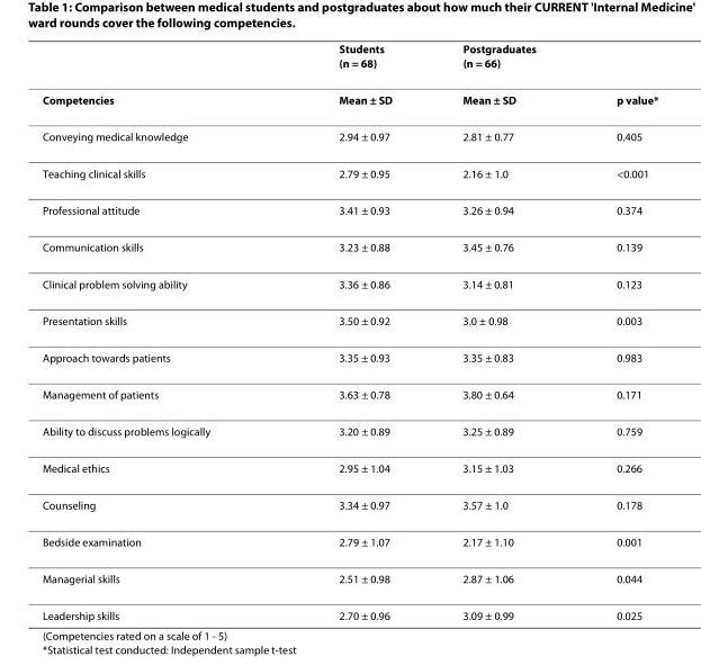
<table><thead><tr><td></td><td>Students (n = 68)</td><td>Postgraduates (n = 66)</td><td></td></tr></thead><tbody><tr><td>Competencies</td><td>Mean ± SD</td><td>Mean ± SD</td><td>p value*</td></tr><tr><td>Conveying medical knowledge</td><td>2.94 ± 0.97</td><td>2.81 ± 0.77</td><td>0.405</td></tr><tr><td>Teaching clinical skills</td><td>2.79 ± 0.95</td><td>2.16 ± 1.0</td><td>&lt;0.001</td></tr><tr><td>Professional attitude</td><td>3.41 ± 0.93</td><td>3.26 ± 0.94</td><td>0.374</td></tr><tr><td>Communication skills</td><td>3.23 ± 0.88</td><td>3.45 ± 0.76</td><td>0.139</td></tr><tr><td>Clinical problem solving ability</td><td>3.36 ± 0.86</td><td>3.14 ± 0.81</td><td>0.123</td></tr><tr><td>Presentation skills</td><td>3.50 ± 0.92</td><td>3.0 ± 0.98</td><td>0.003</td></tr><tr><td>Approach towards patients</td><td>3.35 ± 0.93</td><td>3.35 ± 0.83</td><td>0.983</td></tr><tr><td>Management of patients</td><td>3.63 ± 0.78</td><td>3.80 ± 0.64</td><td>0.171</td></tr><tr><td>Ability to discuss problems logically</td><td>3.20 ± 0.89</td><td>3.25 ± 0.89</td><td>0.759</td></tr><tr><td>Medical ethics</td><td>2.95 ± 1.04</td><td>3.15 ± 1.03</td><td>0.266</td></tr><tr><td>Counseling</td><td>3.34 ± 0.97</td><td>3.57 ± 1.0</td><td>0.178</td></tr><tr><td>Bedside examination</td><td>2.79 ± 1.07</td><td>2.17 ± 1.10</td><td>0.001</td></tr><tr><td>Managerial skills</td><td>2.51 ± 0.98</td><td>2.87 ± 1.06</td><td>0.044</td></tr><tr><td>Leadership skills</td><td>2.70 ± 0.96</td><td>3.09 ± 0.99</td><td>0.025</td></tr></tbody></table>